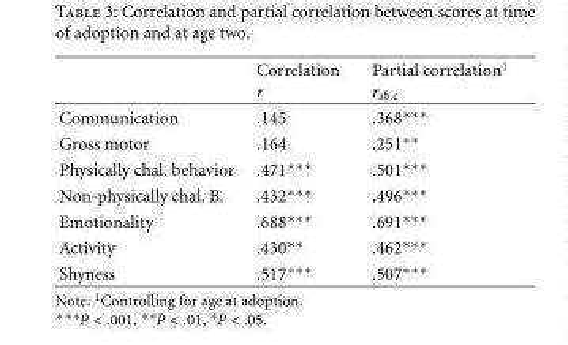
<table><thead><tr><td></td><td>Correlation r</td><td>Partial correlation<sup>1</sup> r<sub>ab.c</sub></td></tr></thead><tbody><tr><td>Communication</td><td>.145</td><td>.368∗∗∗</td></tr><tr><td>Gross motor</td><td>.164</td><td>.251∗∗</td></tr><tr><td>Physically chal. behavior</td><td>.471∗∗∗</td><td>.501∗∗∗</td></tr><tr><td>Non-physically chal. B.</td><td>.432∗∗∗</td><td>.496∗∗∗</td></tr><tr><td>Emotionality</td><td>.688∗∗∗</td><td>.691∗∗∗</td></tr><tr><td>Activity</td><td>.430∗∗</td><td>.462∗∗∗</td></tr><tr><td>Shyness</td><td>.517∗∗∗</td><td>.507∗∗∗</td></tr></tbody></table>